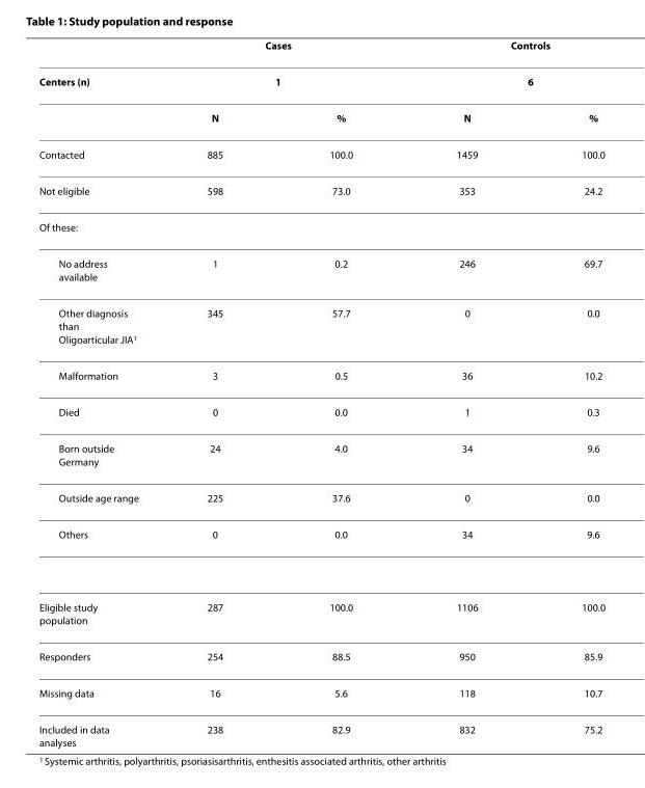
<table><thead><tr><td rowspan="3">Centers (n)</td><td rowspan="2" colspan="2">Cases 1</td><td rowspan="2" colspan="2">Controls 6</td></tr><tr></tr><tr><td>N</td><td>%</td><td>N</td><td>%</td></tr></thead><tbody><tr><td>Contacted</td><td>885</td><td>100.0</td><td>1459</td><td>100.0</td></tr><tr><td>Not eligible</td><td>598</td><td>73.0</td><td>353</td><td>24.2</td></tr><tr><td colspan="5">Of these:</td></tr><tr><td>No address available</td><td>1</td><td>0.2</td><td>246</td><td>69.7</td></tr><tr><td>Other diagnosis than Oligoarticular JIA<sup>1</sup></td><td>345</td><td>57.7</td><td>0</td><td>0.0</td></tr><tr><td>Malformation</td><td>3</td><td>0.5</td><td>36</td><td>10.2</td></tr><tr><td>Died</td><td>0</td><td>0.0</td><td>1</td><td>0.3</td></tr><tr><td>Born outside Germany</td><td>24</td><td>4.0</td><td>34</td><td>9.6</td></tr><tr><td>Outside age range</td><td>225</td><td>37.6</td><td>0</td><td>0.0</td></tr><tr><td>Others</td><td>0</td><td>0.0</td><td>34</td><td>9.6</td></tr><tr><td>Eligible study population</td><td>287</td><td>100.0</td><td>1106</td><td>100.0</td></tr><tr><td>Responders</td><td>254</td><td>88.5</td><td>950</td><td>85.9</td></tr><tr><td>Missing data</td><td>16</td><td>5.6</td><td>118</td><td>10.7</td></tr><tr><td>Included in data analyses</td><td>238</td><td>82.9</td><td>832</td><td>75.2</td></tr></tbody></table>